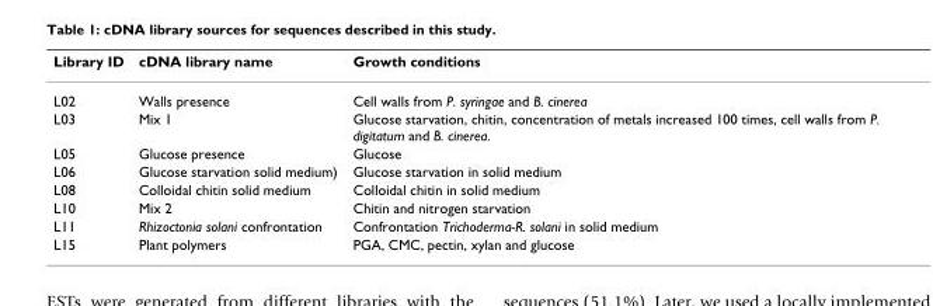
<table><thead><tr><td>Library ID</td><td>cDNA library name</td><td>Growth conditions</td></tr></thead><tbody><tr><td>L02</td><td>Walls presence</td><td>Cell walls from P. syringae and B. cinerea</td></tr><tr><td>L03</td><td>Mix 1</td><td>Glucose starvation, chitin, concentration of metals increased 100 times, cell walls from P. digitatum and B. cinerea.</td></tr><tr><td>L05</td><td>Glucose presence</td><td>Glucose</td></tr><tr><td>L06</td><td>Glucose starvation solid medium)</td><td>Glucose starvation in solid medium</td></tr><tr><td>L08</td><td>Colloidal chitin solid medium</td><td>Colloidal chitin in solid medium</td></tr><tr><td>L10</td><td>Mix 2</td><td>Chitin and nitrogen starvation</td></tr><tr><td>L11</td><td>Rhizoctonia solani confrontation</td><td>Confrontation Trichoderma-R. solani in solid medium</td></tr><tr><td>L15</td><td>Plant polymers</td><td>PGA, CMC, pectin, xylan and glucose</td></tr></tbody></table>